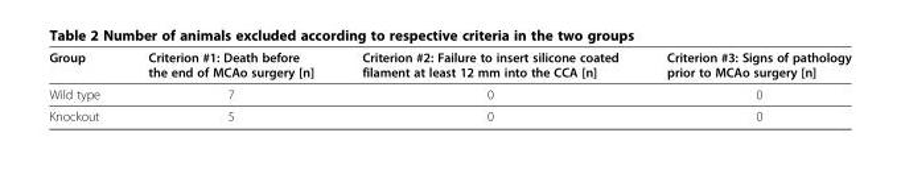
<table><thead><tr><td>Group</td><td>Criterion #1: Death before the end of MCAo surgery [n]</td><td>Criterion #2: Failure to insert silicone coated filament at least 12 mm into the CCA [n]</td><td>Criterion #3: Signs of pathology prior to MCAo surgery [n]</td></tr></thead><tbody><tr><td>Wild type</td><td>7</td><td>0</td><td>0</td></tr><tr><td>Knockout</td><td>5</td><td>0</td><td>0</td></tr></tbody></table>